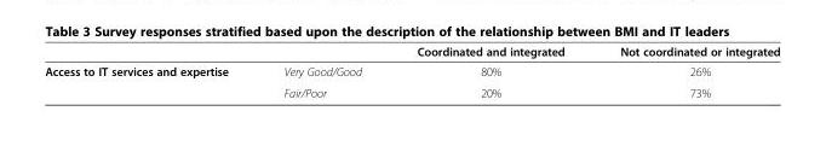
<table><thead><tr><td></td><td></td><td>Coordinated and integrated</td><td>Not coordinated or integrated</td></tr></thead><tbody><tr><td rowspan="2">Access to IT services and expertise</td><td>Very Good/Good</td><td>80%</td><td>26%</td></tr><tr><td>Fair/Poor</td><td>20%</td><td>73%</td></tr></tbody></table>